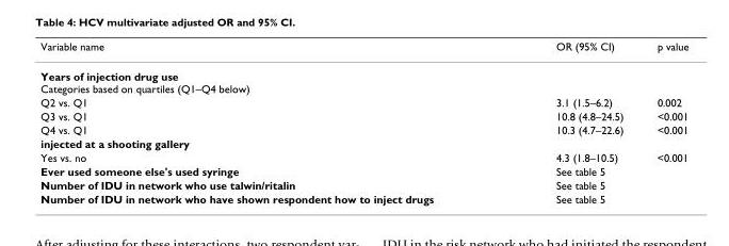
<table><thead><tr><td>Variable name</td><td>OR (95% CI)</td><td>p value</td></tr></thead><tbody><tr><td colspan="3">Years of injection drug use Categories based on quartiles (Q1–Q4 below)</td></tr><tr><td>Q2 vs. Q1</td><td>3.1 (1.5–6.2)</td><td>0.002</td></tr><tr><td>Q3 vs. Q1</td><td>10.8 (4.8–24.5)</td><td>&lt;0.001</td></tr><tr><td>Q4 vs. Q1</td><td>10.3 (4.7–22.6)</td><td>&lt;0.001</td></tr><tr><td colspan="3">injected at a shooting gallery</td></tr><tr><td>Yes vs. no</td><td>4.3 (1.8–10.5)</td><td>&lt;0.001</td></tr><tr><td>Ever used someone else&#x27;s used syringe</td><td>See table 5</td><td></td></tr><tr><td>Number of IDU in network who use talwin/ritalin</td><td>See table 5</td><td></td></tr><tr><td>Number of IDU in network who have shown respondent how to inject drugs</td><td>See table 5</td><td></td></tr></tbody></table>